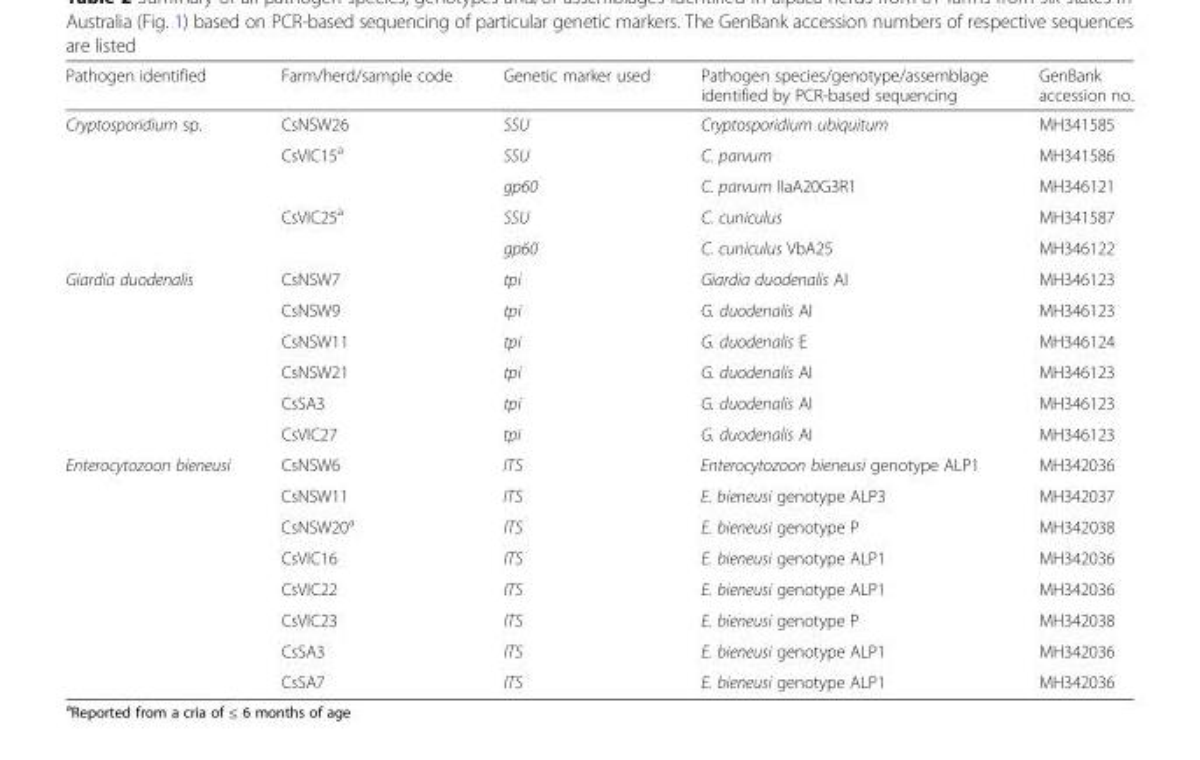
<table><thead><tr><td>Pathogen identified</td><td>Farm/herd/sample code</td><td>Genetic marker used</td><td>Pathogen species/genotype/assemblage identified by PCR-based sequencing</td><td>GenBank accession no.</td></tr></thead><tbody><tr><td rowspan="5">Cryptosporidium sp.</td><td>CsNSW26</td><td>SSU</td><td>Cryptosporidium ubiquitum</td><td>MH341585</td></tr><tr><td rowspan="2">CsVIC15<sup>a</sup></td><td>SSU</td><td>C. parvum</td><td>MH341586</td></tr><tr><td>gp60</td><td>C. parvum IIaA20G3R1</td><td>MH346121</td></tr><tr><td rowspan="2">CsVIC25<sup>a</sup></td><td>SSU</td><td>C. cuniculus</td><td>MH341587</td></tr><tr><td>gp60</td><td>C. cuniculus VbA25</td><td>MH346122</td></tr><tr><td rowspan="6">Giardia duodenalis</td><td>CsNSW7</td><td>tpi</td><td>Giardia duodenalis AI</td><td>MH346123</td></tr><tr><td>CsNSW9</td><td>tpi</td><td>G. duodenalis AI</td><td>MH346123</td></tr><tr><td>CsNSW11</td><td>tpi</td><td>G. duodenalis E</td><td>MH346124</td></tr><tr><td>CsNSW21</td><td>tpi</td><td>G. duodenalis AI</td><td>MH346123</td></tr><tr><td>CsSA3</td><td>tpi</td><td>G. duodenalis AI</td><td>MH346123</td></tr><tr><td>CsVIC27</td><td>tpi</td><td>G. duodenalis AI</td><td>MH346123</td></tr><tr><td rowspan="8">Enterocytozoon bieneusi</td><td>CsNSW6</td><td>ITS</td><td>Enterocytozoon bieneusi genotype ALP1</td><td>MH342036</td></tr><tr><td>CsNSW11</td><td>ITS</td><td>E. bieneusi genotype ALP3</td><td>MH342037</td></tr><tr><td>CsNSW20<sup>a</sup></td><td>ITS</td><td>E. bieneusi genotype P</td><td>MH342038</td></tr><tr><td>CsVIC16</td><td>ITS</td><td>E. bieneusi genotype ALP1</td><td>MH342036</td></tr><tr><td>CsVIC22</td><td>ITS</td><td>E. bieneusi genotype ALP1</td><td>MH342036</td></tr><tr><td>CsVIC23</td><td>ITS</td><td>E. bieneusi genotype P</td><td>MH342038</td></tr><tr><td>CsSA3</td><td>ITS</td><td>E. bieneusi genotype ALP1</td><td>MH342036</td></tr><tr><td>CsSA7</td><td>ITS</td><td>E. bieneusi genotype ALP1</td><td>MH342036</td></tr></tbody></table>